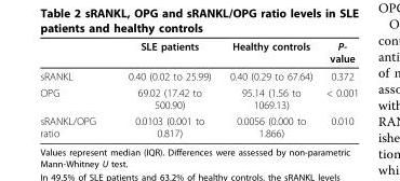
<table><thead><tr><td></td><td>SLE patients</td><td>Healthy controls</td><td>P- value</td></tr></thead><tbody><tr><td>sRANKL</td><td>0.40 (0.02 to 25.99)</td><td>0.40 (0.29 to 67.64)</td><td>0.372</td></tr><tr><td>OPG</td><td>69.02 (17.42 to 500.90)</td><td>95.14 (1.56 to 1069.13)</td><td>&lt; 0.001</td></tr><tr><td>sRANKL/OPG ratio</td><td>0.0103 (0.001 to 0.817)</td><td>0.0056 (0.000 to 1.866)</td><td>0.010</td></tr></tbody></table>